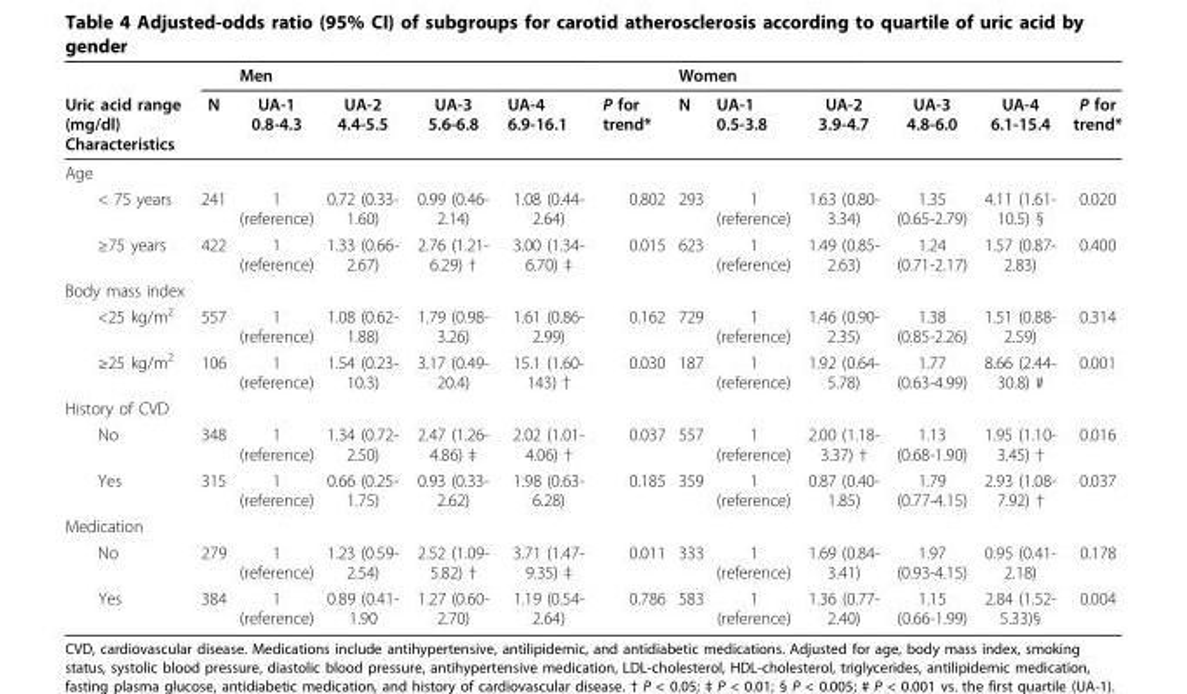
<table><thead><tr><td rowspan="2">Uric acid range (mg/dl) Characteristics</td><td rowspan="2">N</td><td colspan="5">Men</td><td colspan="6">Women</td></tr><tr><td>UA-1 0.8-4.3</td><td>UA-2 4.4-5.5</td><td>UA-3 5.6-6.8</td><td>UA-4 6.9-16.1</td><td>P for trend*</td><td>N</td><td>UA-1 0.5-3.8</td><td>UA-2 3.9-4.7</td><td>UA-3 4.8-6.0</td><td>UA-4 6.1-15.4</td><td>P for trend*</td></tr></thead><tbody><tr><td colspan="13">Age</td></tr><tr><td>&lt; 75 years</td><td>241</td><td>1 (reference)</td><td>0.72 (0.33- 1.60)</td><td>0.99 (0.46- 2.14)</td><td>1.08 (0.44- 2.64)</td><td>0.802</td><td>293</td><td>1 (reference)</td><td>1.63 (0.80- 3.34)</td><td>1.35 (0.65-2.79)</td><td>4.11 (1.61- 10.5) §</td><td>0.020</td></tr><tr><td>≥75 years</td><td>422</td><td>1 (reference)</td><td>1.33 (0.66- 2.67)</td><td>2.76 (1.21- 6.29) †</td><td>3.00 (1.34- 6.70) ‡</td><td>0.015</td><td>623</td><td>1 (reference)</td><td>1.49 (0.85- 2.63)</td><td>1.24 (0.71-2.17)</td><td>1.57 (0.87- 2.83)</td><td>0.400</td></tr><tr><td colspan="13">Body mass index</td></tr><tr><td>&lt;25 kg/m<sup>2</sup></td><td>557</td><td>1 (reference)</td><td>1.08 (0.62- 1.88)</td><td>1.79 (0.98- 3.26)</td><td>1.61 (0.86- 2.99)</td><td>0.162</td><td>729</td><td>1 (reference)</td><td>1.46 (0.90- 2.35)</td><td>1.38 (0.85-2.26)</td><td>1.51 (0.88- 2.59)</td><td>0.314</td></tr><tr><td>≥25 kg/m<sup>2</sup></td><td>106</td><td>1 (reference)</td><td>1.54 (0.23- 10.3)</td><td>3.17 (0.49- 20.4)</td><td>15.1 (1.60- 143) †</td><td>0.030</td><td>187</td><td>1 (reference)</td><td>1.92 (0.64- 5.78)</td><td>1.77 (0.63-4.99)</td><td>8.66 (2.44- 30.8) #</td><td>0.001</td></tr><tr><td colspan="13">History of CVD</td></tr><tr><td>No</td><td>348</td><td>1 (reference)</td><td>1.34 (0.72- 2.50)</td><td>2.47 (1.26- 4.86) ‡</td><td>2.02 (1.01- 4.06) †</td><td>0.037</td><td>557</td><td>1 (reference)</td><td>2.00 (1.18- 3.37) †</td><td>1.13 (0.68-1.90)</td><td>1.95 (1.10- 3.45) †</td><td>0.016</td></tr><tr><td>Yes</td><td>315</td><td>1 (reference)</td><td>0.66 (0.25- 1.75)</td><td>0.93 (0.33- 2.62)</td><td>1.98 (0.63- 6.28)</td><td>0.185</td><td>359</td><td>1 (reference)</td><td>0.87 (0.40- 1.85)</td><td>1.79 (0.77-4.15)</td><td>2.93 (1.08- 7.92) †</td><td>0.037</td></tr><tr><td colspan="13">Medication</td></tr><tr><td>No</td><td>279</td><td>1 (reference)</td><td>1.23 (0.59- 2.54)</td><td>2.52 (1.09- 5.82) †</td><td>3.71 (1.47- 9.35) ‡</td><td>0.011</td><td>333</td><td>1 (reference)</td><td>1.69 (0.84- 3.41)</td><td>1.97 (0.93-4.15)</td><td>0.95 (0.41- 2.18)</td><td>0.178</td></tr><tr><td>Yes</td><td>384</td><td>1 (reference)</td><td>0.89 (0.41- 1.90</td><td>1.27 (0.60- 2.70)</td><td>1.19 (0.54- 2.64)</td><td>0.786</td><td>583</td><td>1 (reference)</td><td>1.36 (0.77- 2.40)</td><td>1.15 (0.66-1.99)</td><td>2.84 (1.52- 5.33)§</td><td>0.004</td></tr></tbody></table>